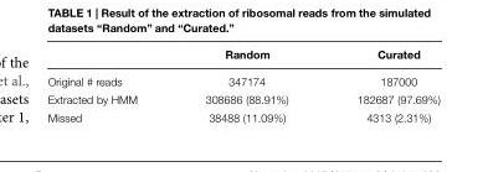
<table><thead><tr><td></td><td>Random</td><td>Curated</td></tr></thead><tbody><tr><td>Original # reads</td><td>347174</td><td>187000</td></tr><tr><td>Extracted by HMM</td><td>308686 (88.91%)</td><td>182687 (97.69%)</td></tr><tr><td>Missed</td><td>38488 (11.09%)</td><td>4313 (2.31%)</td></tr></tbody></table>